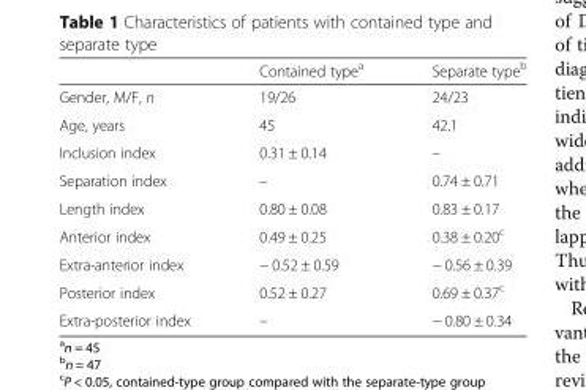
<table><thead><tr><td></td><td>Contained type<sup>a</sup></td><td>Separate type<sup>b</sup></td></tr></thead><tbody><tr><td>Gender, M/F, n</td><td>19/26</td><td>24/23</td></tr><tr><td>Age, years</td><td>45</td><td>42.1</td></tr><tr><td>Inclusion index</td><td>0.31 ± 0.14</td><td>–</td></tr><tr><td>Separation index</td><td>–</td><td>0.74 ± 0.71</td></tr><tr><td>Length index</td><td>0.80 ± 0.08</td><td>0.83 ± 0.17</td></tr><tr><td>Anterior index</td><td>0.49 ± 0.25</td><td>0.38 ± 0.20<sup>c</sup></td></tr><tr><td>Extra-anterior index</td><td>− 0.52 ± 0.59</td><td>− 0.56 ± 0.39</td></tr><tr><td>Posterior index</td><td>0.52 ± 0.27</td><td>0.69 ± 0.37<sup>c</sup></td></tr><tr><td>Extra-posterior index</td><td>–</td><td>− 0.80 ± 0.34</td></tr></tbody></table>